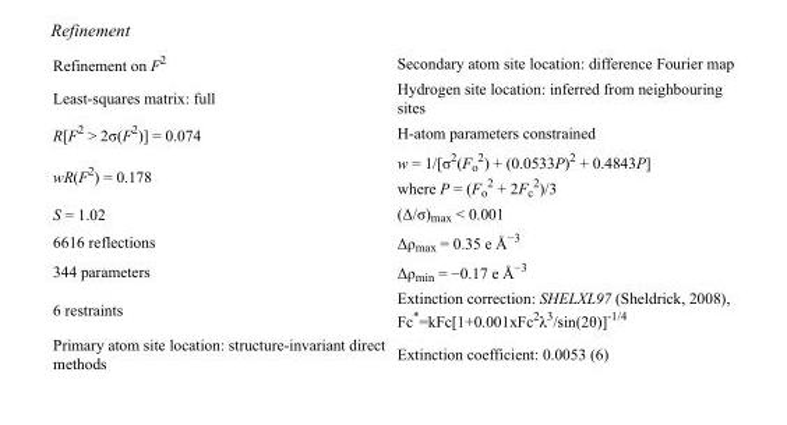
<table><tbody><tr><td>Refinement on F<sup>2</sup></td><td>Secondary atom site location: difference Fourier map</td></tr><tr><td>Least-squares matrix: full</td><td>Hydrogen site location: inferred from neighbouring sites</td></tr><tr><td>R[F<sup>2</sup> &gt; 2σ(F<sup>2</sup>)] = 0.074</td><td>H-atom parameters constrained</td></tr><tr><td>wR(F<sup>2</sup>) = 0.178</td><td>w = 1/[σ<sup>2</sup>(F<sub>o</sub> <sup>2</sup>) + (0.0533P)<sup>2</sup> + 0.4843P] where P = (F<sub>o</sub> <sup>2</sup> + 2F<sub>c</sub> <sup>2</sup>)/3</td></tr><tr><td>S = 1.02</td><td>(Δ/σ)<sub>max</sub> &lt; 0.001</td></tr><tr><td>6616 reflections</td><td>Δρ<sub>max</sub> = 0.35 e Å<sup>−3</sup></td></tr><tr><td>344 parameters</td><td>Δρ<sub>min</sub> = −0.17 e Å<sup>−3</sup></td></tr><tr><td>6 restraints</td><td>Extinction correction: SHELXL97 (Sheldrick, 2008), Fc*=kFc[1+0.001xFc<sup>2</sup>λ<sup>3</sup>/sin(2θ)]<sup>-1/4</sup></td></tr><tr><td>Primary atom site location: structure-invariant direct methods</td><td>Extinction coefficient: 0.0053 (6)</td></tr></tbody></table>